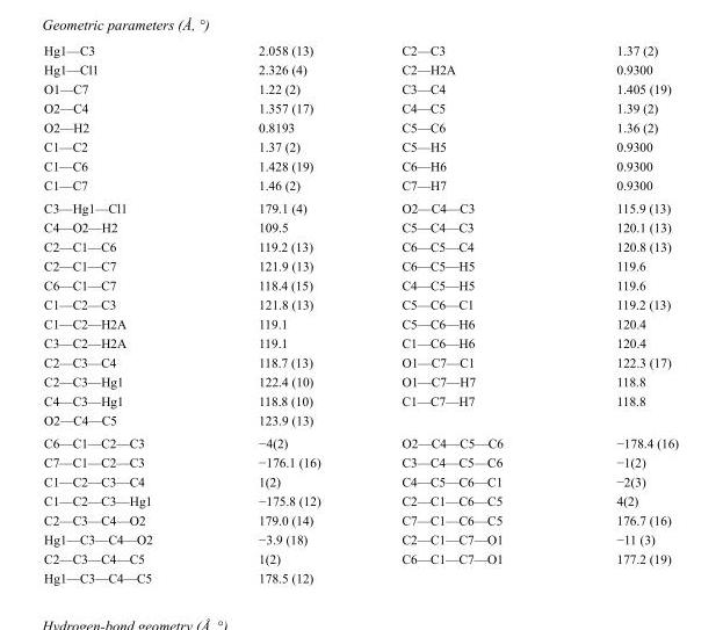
<table><tbody><tr><td>Hg1—C3</td><td>2.058 (13)</td><td>C2—C3</td><td>1.37 (2)</td></tr><tr><td>Hg1—Cl1</td><td>2.326 (4)</td><td>C2—H2A</td><td>0.9300</td></tr><tr><td>O1—C7</td><td>1.22 (2)</td><td>C3—C4</td><td>1.405 (19)</td></tr><tr><td>O2—C4</td><td>1.357 (17)</td><td>C4—C5</td><td>1.39 (2)</td></tr><tr><td>O2—H2</td><td>0.8193</td><td>C5—C6</td><td>1.36 (2)</td></tr><tr><td>C1—C2</td><td>1.37 (2)</td><td>C5—H5</td><td>0.9300</td></tr><tr><td>C1—C6</td><td>1.428 (19)</td><td>C6—H6</td><td>0.9300</td></tr><tr><td>C1—C7</td><td>1.46 (2)</td><td>C7—H7</td><td>0.9300</td></tr><tr><td>C3—Hg1—Cl1</td><td>179.1 (4)</td><td>O2—C4—C3</td><td>115.9 (13)</td></tr><tr><td>C4—O2—H2</td><td>109.5</td><td>C5—C4—C3</td><td>120.1 (13)</td></tr><tr><td>C2—C1—C6</td><td>119.2 (13)</td><td>C6—C5—C4</td><td>120.8 (13)</td></tr><tr><td>C2—C1—C7</td><td>121.9 (13)</td><td>C6—C5—H5</td><td>119.6</td></tr><tr><td>C6—C1—C7</td><td>118.4 (15)</td><td>C4—C5—H5</td><td>119.6</td></tr><tr><td>C1—C2—C3</td><td>121.8 (13)</td><td>C5—C6—C1</td><td>119.2 (13)</td></tr><tr><td>C1—C2—H2A</td><td>119.1</td><td>C5—C6—H6</td><td>120.4</td></tr><tr><td>C3—C2—H2A</td><td>119.1</td><td>C1—C6—H6</td><td>120.4</td></tr><tr><td>C2—C3—C4</td><td>118.7 (13)</td><td>O1—C7—C1</td><td>122.3 (17)</td></tr><tr><td>C2—C3—Hg1</td><td>122.4 (10)</td><td>O1—C7—H7</td><td>118.8</td></tr><tr><td>C4—C3—Hg1</td><td>118.8 (10)</td><td>C1—C7—H7</td><td>118.8</td></tr><tr><td>O2—C4—C5</td><td>123.9 (13)</td><td></td><td></td></tr><tr><td>C6—C1—C2—C3</td><td>−4(2)</td><td>O2—C4—C5—C6</td><td>−178.4 (16)</td></tr><tr><td>C7—C1—C2—C3</td><td>−176.1 (16)</td><td>C3—C4—C5—C6</td><td>−1(2)</td></tr><tr><td>C1—C2—C3—C4</td><td>1(2)</td><td>C4—C5—C6—C1</td><td>−2(3)</td></tr><tr><td>C1—C2—C3—Hg1</td><td>−175.8 (12)</td><td>C2—C1—C6—C5</td><td>4(2)</td></tr><tr><td>C2—C3—C4—O2</td><td>179.0 (14)</td><td>C7—C1—C6—C5</td><td>176.7 (16)</td></tr><tr><td>Hg1—C3—C4—O2</td><td>−3.9 (18)</td><td>C2—C1—C7—O1</td><td>−11 (3)</td></tr><tr><td>C2—C3—C4—C5</td><td>1(2)</td><td>C6—C1—C7—O1</td><td>177.2 (19)</td></tr><tr><td>Hg1—C3—C4—C5</td><td>178.5 (12)</td><td></td><td></td></tr></tbody></table>